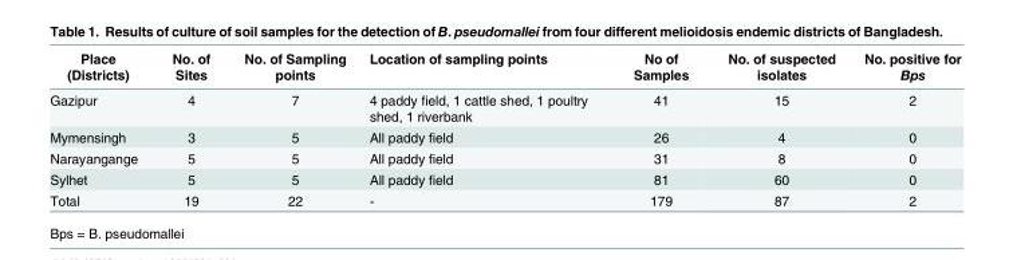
<table><thead><tr><td>Place (Districts)</td><td>No. of Sites</td><td>No. of Sampling points</td><td>Location of sampling points</td><td>No of Samples</td><td>No. of suspected isolates</td><td>No. positive for Bps</td></tr></thead><tbody><tr><td>Gazipur</td><td>4</td><td>7</td><td>4 paddy field, 1 cattle shed, 1 poultry shed, 1 riverbank</td><td>41</td><td>15</td><td>2</td></tr><tr><td>Mymensingh</td><td>3</td><td>5</td><td>All paddy field</td><td>26</td><td>4</td><td>0</td></tr><tr><td>Narayangange</td><td>5</td><td>5</td><td>All paddy field</td><td>31</td><td>8</td><td>0</td></tr><tr><td>Sylhet</td><td>5</td><td>5</td><td>All paddy field</td><td>81</td><td>60</td><td>0</td></tr><tr><td>Total</td><td>19</td><td>22</td><td>-</td><td>179</td><td>87</td><td>2</td></tr></tbody></table>